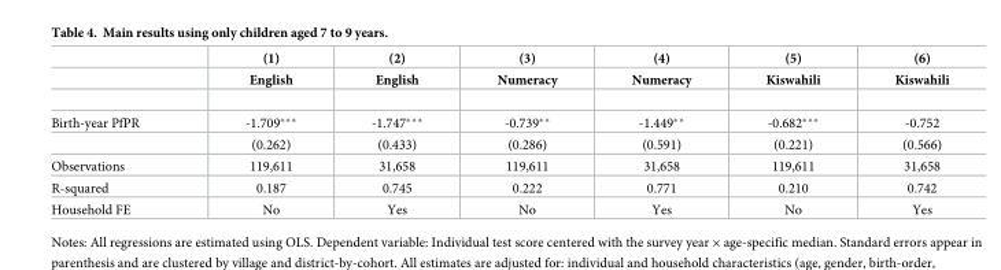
<table><thead><tr><td rowspan="2"></td><td rowspan="2">(1) English</td><td rowspan="2">(2) English</td><td rowspan="2">(3) Numeracy</td><td rowspan="2">(4) Numeracy</td><td rowspan="2">(5) Kiswahili</td><td rowspan="2">(6) Kiswahili</td></tr><tr></tr></thead><tbody><tr><td rowspan="2">Birth-year PfPR</td><td>-1.709***</td><td>-1.747***</td><td>-0.739**</td><td>-1.449**</td><td>-0.682***</td><td>-0.752</td></tr><tr><td>(0.262)</td><td>(0.433)</td><td>(0.286)</td><td>(0.591)</td><td>(0.221)</td><td>(0.566)</td></tr><tr><td>Observations</td><td>119,611</td><td>31,658</td><td>119,611</td><td>31,658</td><td>119,611</td><td>31,658</td></tr><tr><td>R-squared</td><td>0.187</td><td>0.745</td><td>0.222</td><td>0.771</td><td>0.210</td><td>0.742</td></tr><tr><td>Household FE</td><td>No</td><td>Yes</td><td>No</td><td>Yes</td><td>No</td><td>Yes</td></tr></tbody></table>